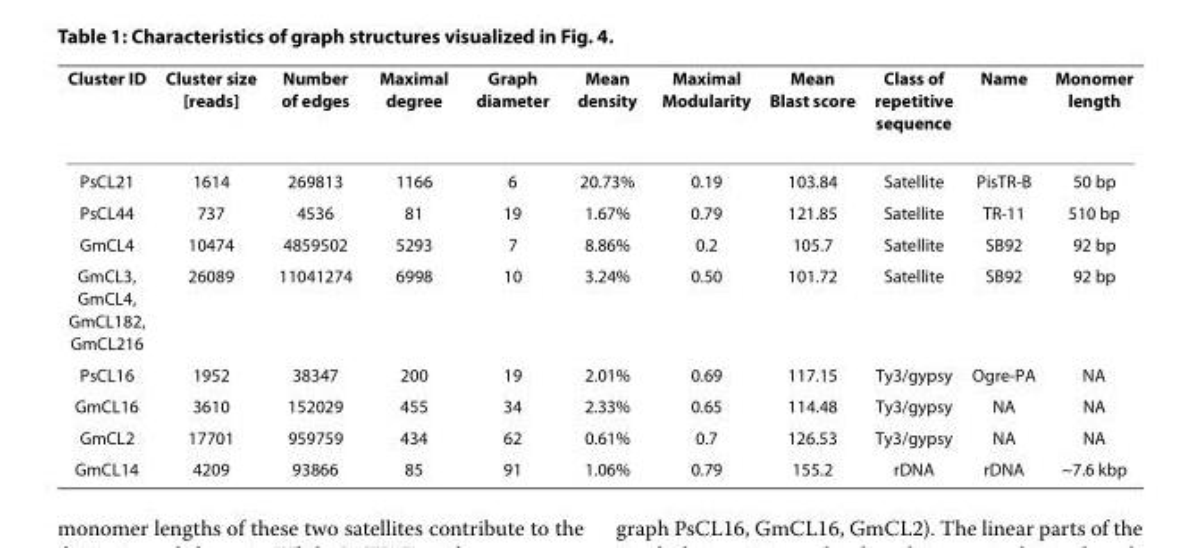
<table><thead><tr><td>Cluster ID</td><td>Cluster size [reads]</td><td>Number of edges</td><td>Maximal degree</td><td>Graph diameter</td><td>Mean density</td><td>Maximal Modularity</td><td>Mean Blast score</td><td>Class of repetitive sequence</td><td>Name</td><td>Monomer length</td></tr></thead><tbody><tr><td>PsCL21</td><td>1614</td><td>269813</td><td>1166</td><td>6</td><td>20.73%</td><td>0.19</td><td>103.84</td><td>Satellite</td><td>PisTR-B</td><td>50 bp</td></tr><tr><td>PsCL44</td><td>737</td><td>4536</td><td>81</td><td>19</td><td>1.67%</td><td>0.79</td><td>121.85</td><td>Satellite</td><td>TR-11</td><td>510 bp</td></tr><tr><td>GmCL4</td><td>10474</td><td>4859502</td><td>5293</td><td>7</td><td>8.86%</td><td>0.2</td><td>105.7</td><td>Satellite</td><td>SB92</td><td>92 bp</td></tr><tr><td>GmCL3, GmCL4, GmCL182, GmCL216</td><td>26089</td><td>11041274</td><td>6998</td><td>10</td><td>3.24%</td><td>0.50</td><td>101.72</td><td>Satellite</td><td>SB92</td><td>92 bp</td></tr><tr><td>PsCL16</td><td>1952</td><td>38347</td><td>200</td><td>19</td><td>2.01%</td><td>0.69</td><td>117.15</td><td>Ty3/gypsy</td><td>Ogre-PA</td><td>NA</td></tr><tr><td>GmCL16</td><td>3610</td><td>152029</td><td>455</td><td>34</td><td>2.33%</td><td>0.65</td><td>114.48</td><td>Ty3/gypsy</td><td>NA</td><td>NA</td></tr><tr><td>GmCL2</td><td>17701</td><td>959759</td><td>434</td><td>62</td><td>0.61%</td><td>0.7</td><td>126.53</td><td>Ty3/gypsy</td><td>NA</td><td>NA</td></tr><tr><td>GmCL14</td><td>4209</td><td>93866</td><td>85</td><td>91</td><td>1.06%</td><td>0.79</td><td>155.2</td><td>rDNA</td><td>rDNA</td><td>~7.6 kbp</td></tr></tbody></table>